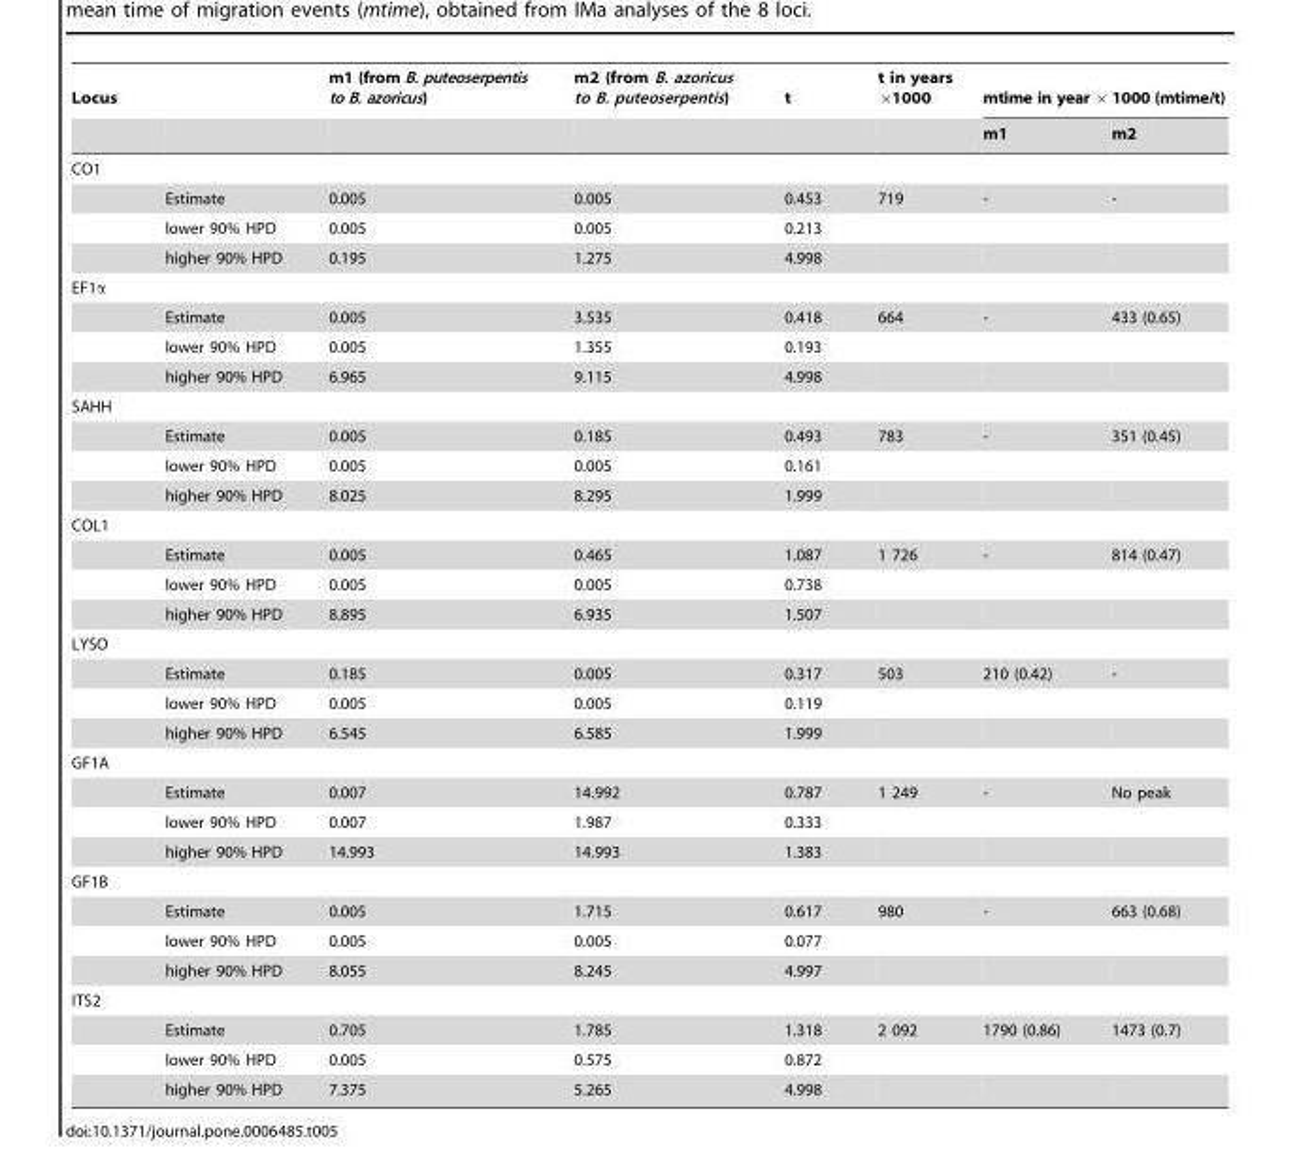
<table><thead><tr><td rowspan="2">Locus</td><td rowspan="2"></td><td rowspan="2">m1 (from B. puteoserpentis to B. azoricus)</td><td rowspan="2">m2 (from B. azoricus to B. puteoserpentis)</td><td rowspan="2">t</td><td rowspan="2">t in years ×1000</td><td colspan="2">mtime in year ×1000 (mtime/t)</td></tr><tr><td>m1</td><td>m2</td></tr></thead><tbody><tr><td colspan="8">CO1</td></tr><tr><td></td><td>Estimate</td><td>0.005</td><td>0.005</td><td>0.453</td><td>719</td><td>-</td><td>-</td></tr><tr><td></td><td>lower 90% HPD</td><td>0.005</td><td>0.005</td><td>0.213</td><td></td><td></td><td></td></tr><tr><td></td><td>higher 90% HPD</td><td>0.195</td><td>1.275</td><td>4.998</td><td></td><td></td><td></td></tr><tr><td colspan="8">EF1α</td></tr><tr><td></td><td>Estimate</td><td>0.005</td><td>3.535</td><td>0.418</td><td>664</td><td>-</td><td>433 (0.65)</td></tr><tr><td></td><td>lower 90% HPD</td><td>0.005</td><td>1.355</td><td>0.193</td><td></td><td></td><td></td></tr><tr><td></td><td>higher 90% HPD</td><td>6.965</td><td>9.115</td><td>4.998</td><td></td><td></td><td></td></tr><tr><td colspan="8">SAHH</td></tr><tr><td></td><td>Estimate</td><td>0.005</td><td>0.185</td><td>0.493</td><td>783</td><td>-</td><td>351 (0.45)</td></tr><tr><td></td><td>lower 90% HPD</td><td>0.005</td><td>0.005</td><td>0.161</td><td></td><td></td><td></td></tr><tr><td></td><td>higher 90% HPD</td><td>8.025</td><td>8.295</td><td>1.999</td><td></td><td></td><td></td></tr><tr><td colspan="8">COL1</td></tr><tr><td></td><td>Estimate</td><td>0.005</td><td>0.465</td><td>1.087</td><td>1 726</td><td>-</td><td>814 (0.47)</td></tr><tr><td></td><td>lower 90% HPD</td><td>0.005</td><td>0.005</td><td>0.738</td><td></td><td></td><td></td></tr><tr><td></td><td>higher 90% HPD</td><td>8.895</td><td>6.935</td><td>1.507</td><td></td><td></td><td></td></tr><tr><td colspan="8">LYSO</td></tr><tr><td></td><td>Estimate</td><td>0.185</td><td>0.005</td><td>0.317</td><td>503</td><td>210 (0.42)</td><td>-</td></tr><tr><td></td><td>lower 90% HPD</td><td>0.005</td><td>0.005</td><td>0.119</td><td></td><td></td><td></td></tr><tr><td></td><td>higher 90% HPD</td><td>6.545</td><td>6.585</td><td>1.999</td><td></td><td></td><td></td></tr><tr><td colspan="8">GF1A</td></tr><tr><td></td><td>Estimate</td><td>0.007</td><td>14.992</td><td>0.787</td><td>1 249</td><td>-</td><td>No peak</td></tr><tr><td></td><td>lower 90% HPD</td><td>0.007</td><td>1.987</td><td>0.333</td><td></td><td></td><td></td></tr><tr><td></td><td>higher 90% HPD</td><td>14.993</td><td>14.993</td><td>1.383</td><td></td><td></td><td></td></tr><tr><td colspan="8">GF1B</td></tr><tr><td></td><td>Estimate</td><td>0.005</td><td>1.715</td><td>0.617</td><td>980</td><td>-</td><td>663 (0.68)</td></tr><tr><td></td><td>lower 90% HPD</td><td>0.005</td><td>0.005</td><td>0.077</td><td></td><td></td><td></td></tr><tr><td></td><td>higher 90% HPD</td><td>8.055</td><td>8.245</td><td>4.997</td><td></td><td></td><td></td></tr><tr><td colspan="8">ITS2</td></tr><tr><td></td><td>Estimate</td><td>0.705</td><td>1.785</td><td>1.318</td><td>2 092</td><td>1790 (0.86)</td><td>1473 (0.7)</td></tr><tr><td></td><td>lower 90% HPD</td><td>0.005</td><td>0.575</td><td>0.872</td><td></td><td></td><td></td></tr><tr><td></td><td>higher 90% HPD</td><td>7.375</td><td>5.265</td><td>4.998</td><td></td><td></td><td></td></tr></tbody></table>